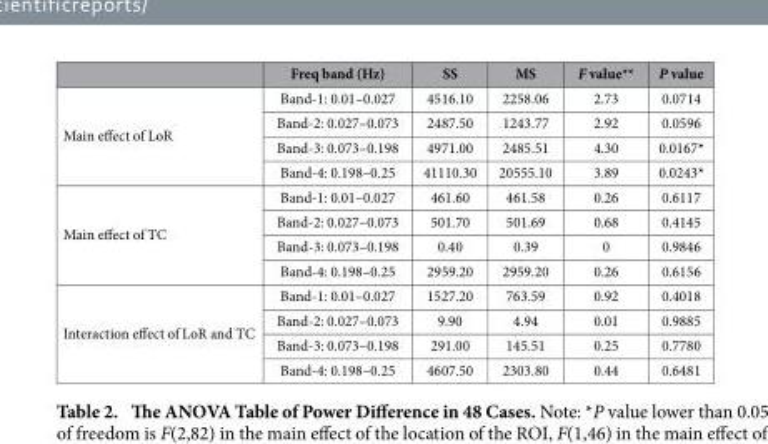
<table><thead><tr><td></td><td>Freq band (Hz)</td><td>SS</td><td>MS</td><td>F value**</td><td>P value</td></tr></thead><tbody><tr><td rowspan="4">Main effect of LoR</td><td>Band-1: 0.01–0.027</td><td>4516.10</td><td>2258.06</td><td>2.73</td><td>0.0714</td></tr><tr><td>Band-2: 0.027–0.073</td><td>2487.50</td><td>1243.77</td><td>2.92</td><td>0.0596</td></tr><tr><td>Band-3: 0.073–0.198</td><td>4971.00</td><td>2485.51</td><td>4.30</td><td>0.0167*</td></tr><tr><td>Band-4: 0.198–0.25</td><td>41110.30</td><td>20555.10</td><td>3.89</td><td>0.0243*</td></tr><tr><td rowspan="4">Main effect of TC</td><td>Band-1: 0.01–0.027</td><td>461.60</td><td>461.58</td><td>0.26</td><td>0.6117</td></tr><tr><td>Band-2: 0.027–0.073</td><td>501.70</td><td>501.69</td><td>0.68</td><td>0.4145</td></tr><tr><td>Band-3: 0.073–0.198</td><td>0.40</td><td>0.39</td><td>0</td><td>0.9846</td></tr><tr><td>Band-4: 0.198–0.25</td><td>2959.20</td><td>2959.20</td><td>0.26</td><td>0.6156</td></tr><tr><td rowspan="4">Interaction effect of LoR and TC</td><td>Band-1: 0.01–0.027</td><td>1527.20</td><td>763.59</td><td>0.92</td><td>0.4018</td></tr><tr><td>Band-2: 0.027–0.073</td><td>9.90</td><td>4.94</td><td>0.01</td><td>0.9885</td></tr><tr><td>Band-3: 0.073–0.198</td><td>291.00</td><td>145.51</td><td>0.25</td><td>0.7780</td></tr><tr><td>Band-4: 0.198–0.25</td><td>4607.50</td><td>2303.80</td><td>0.44</td><td>0.6481</td></tr></tbody></table>